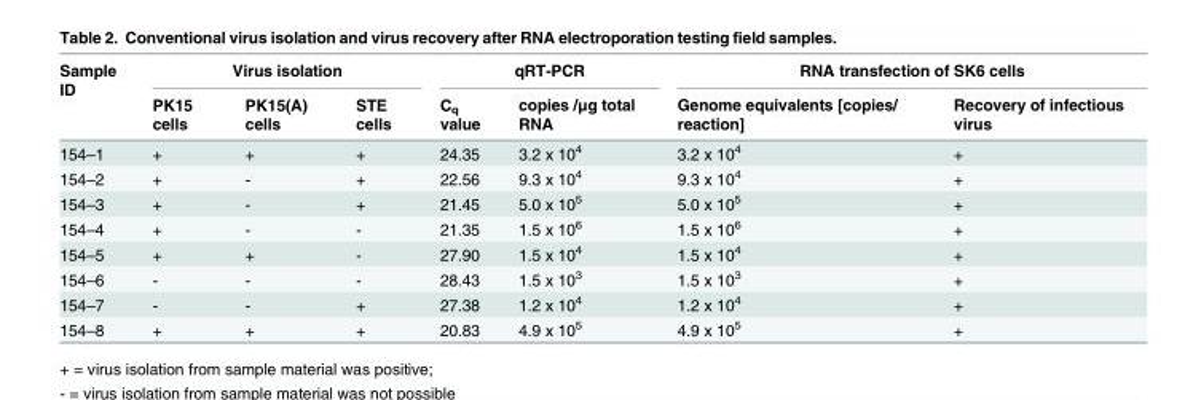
<table><thead><tr><td rowspan="2">Sample ID</td><td colspan="3">Virus isolation</td><td colspan="2">qRT-PCR</td><td colspan="2">RNA transfection of SK6 cells</td></tr><tr><td>PK15 cells</td><td>PK15(A) cells</td><td>STE cells</td><td>C<sub>q</sub> value</td><td>copies /μg total RNA</td><td>Genome equivalents [copies/ reaction]</td><td>Recovery of infectious virus</td></tr></thead><tbody><tr><td>154–1</td><td>+</td><td>+</td><td>+</td><td>24.35</td><td>3.2 x 10<sup>4</sup></td><td>3.2 x 10<sup>4</sup></td><td>+</td></tr><tr><td>154–2</td><td>+</td><td>-</td><td>+</td><td>22.56</td><td>9.3 x 10<sup>4</sup></td><td>9.3 x 10<sup>4</sup></td><td>+</td></tr><tr><td>154–3</td><td>+</td><td>-</td><td>+</td><td>21.45</td><td>5.0 x 10<sup>5</sup></td><td>5.0 x 10<sup>5</sup></td><td>+</td></tr><tr><td>154–4</td><td>+</td><td>-</td><td>-</td><td>21.35</td><td>1.5 x 10<sup>6</sup></td><td>1.5 x 10<sup>6</sup></td><td>+</td></tr><tr><td>154–5</td><td>+</td><td>+</td><td>-</td><td>27.90</td><td>1.5 x 10<sup>4</sup></td><td>1.5 x 10<sup>4</sup></td><td>+</td></tr><tr><td>154–6</td><td>-</td><td>-</td><td>-</td><td>28.43</td><td>1.5 x 10<sup>3</sup></td><td>1.5 x 10<sup>3</sup></td><td>+</td></tr><tr><td>154–7</td><td>-</td><td>-</td><td>+</td><td>27.38</td><td>1.2 x 10<sup>4</sup></td><td>1.2 x 10<sup>4</sup></td><td>+</td></tr><tr><td>154–8</td><td>+</td><td>+</td><td>+</td><td>20.83</td><td>4.9 x 10<sup>5</sup></td><td>4.9 x 10<sup>5</sup></td><td>+</td></tr></tbody></table>